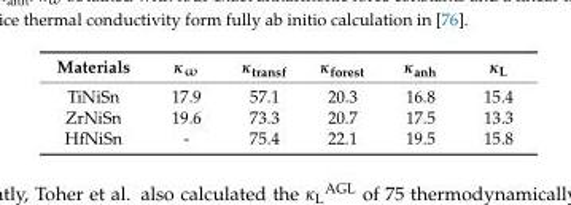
<table><thead><tr><td>Materials</td><td>κ<sub>ω</sub></td><td>κ<sub>transf</sub></td><td>κ<sub>forest</sub></td><td>κ<sub>anh</sub></td><td>κ<sub>L</sub></td></tr></thead><tbody><tr><td>TiNiSn</td><td>17.9</td><td>57.1</td><td>20.3</td><td>16.8</td><td>15.4</td></tr><tr><td>ZrNiSn</td><td>19.6</td><td>73.3</td><td>20.7</td><td>17.5</td><td>13.3</td></tr><tr><td>HfNiSn</td><td>-</td><td>75.4</td><td>22.1</td><td>19.5</td><td>15.8</td></tr></tbody></table>